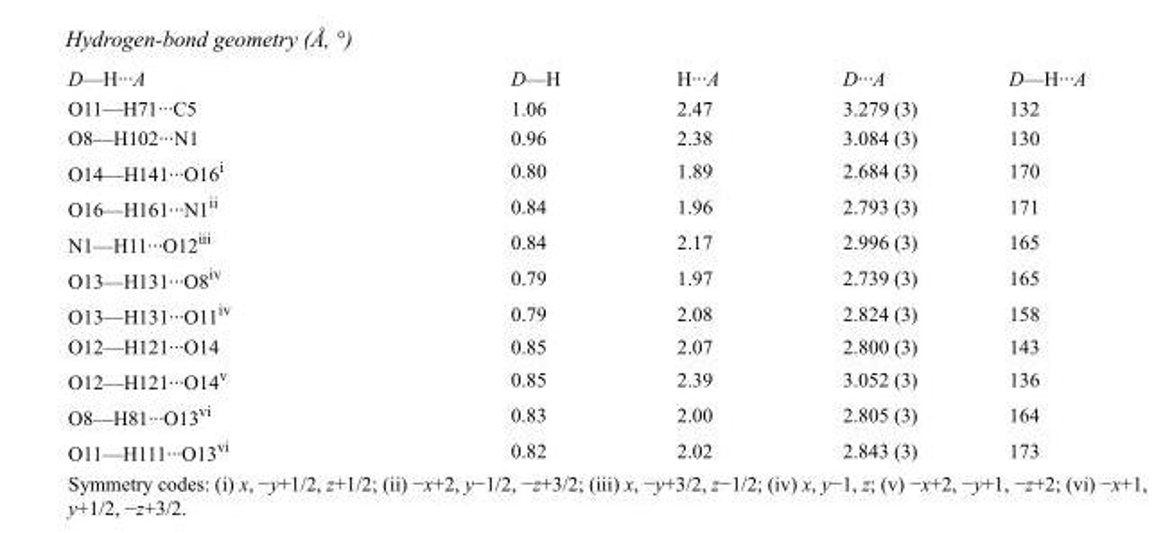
<table><tbody><tr><td>D—H···A</td><td>D—H</td><td>H···A</td><td>D···A</td><td>D—H···A</td></tr><tr><td>O11—H71···C5</td><td>1.06</td><td>2.47</td><td>3.279 (3)</td><td>132</td></tr><tr><td>O8—H102···N1</td><td>0.96</td><td>2.38</td><td>3.084 (3)</td><td>130</td></tr><tr><td>O14—H141···O16<sup>i</sup></td><td>0.80</td><td>1.89</td><td>2.684 (3)</td><td>170</td></tr><tr><td>O16—H161···N1<sup>ii</sup></td><td>0.84</td><td>1.96</td><td>2.793 (3)</td><td>171</td></tr><tr><td>N1—H11···O12<sup>iii</sup></td><td>0.84</td><td>2.17</td><td>2.996 (3)</td><td>165</td></tr><tr><td>O13—H131···O8<sup>iv</sup></td><td>0.79</td><td>1.97</td><td>2.739 (3)</td><td>165</td></tr><tr><td>O13—H131···O11<sup>iv</sup></td><td>0.79</td><td>2.08</td><td>2.824 (3)</td><td>158</td></tr><tr><td>O12—H121···O14</td><td>0.85</td><td>2.07</td><td>2.800 (3)</td><td>143</td></tr><tr><td>O12—H121···O14<sup>v</sup></td><td>0.85</td><td>2.39</td><td>3.052 (3)</td><td>136</td></tr><tr><td>O8—H81···O13<sup>vi</sup></td><td>0.83</td><td>2.00</td><td>2.805 (3)</td><td>164</td></tr><tr><td>O11—H111···O13<sup>vi</sup></td><td>0.82</td><td>2.02</td><td>2.843 (3)</td><td>173</td></tr></tbody></table>